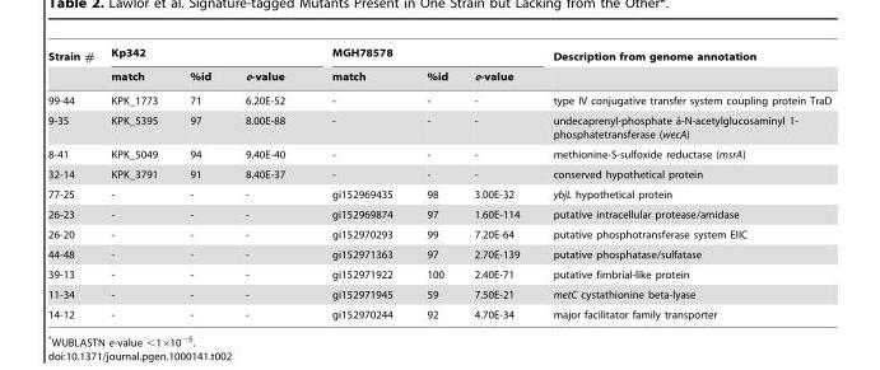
<table><thead><tr><td rowspan="2">Strain #</td><td colspan="3">Kp342</td><td colspan="3">MGH78578</td><td rowspan="2">Description from genome annotation</td></tr><tr><td>match</td><td>%id</td><td>e-value</td><td>match</td><td>%id</td><td>e-value</td></tr></thead><tbody><tr><td>99-44</td><td>KPK_1773</td><td>71</td><td>6.20E-52</td><td>-</td><td>-</td><td>-</td><td>type IV conjugative transfer system coupling protein TraD</td></tr><tr><td>9-35</td><td>KPK_5395</td><td>97</td><td>8.00E-88</td><td>-</td><td>-</td><td>-</td><td>undecaprenyl-phosphate a´-N-acetylglucosaminyl 1- phosphatetransferase (wecA)</td></tr><tr><td>8-41</td><td>KPK_5049</td><td>94</td><td>9.40E-40</td><td>-</td><td>-</td><td>-</td><td>methionine-S-sulfoxide reductase (msrA)</td></tr><tr><td>32-14</td><td>KPK_3791</td><td>91</td><td>8.40E-37</td><td>-</td><td>-</td><td>-</td><td>conserved hypothetical protein</td></tr><tr><td>77-25</td><td>-</td><td>-</td><td>-</td><td>gi152969435</td><td>98</td><td>3.00E-32</td><td>ybjL hypothetical protein</td></tr><tr><td>26-23</td><td>-</td><td>-</td><td>-</td><td>gi152969874</td><td>97</td><td>1.60E-114</td><td>putative intracellular protease/amidase</td></tr><tr><td>26-20</td><td>-</td><td>-</td><td>-</td><td>gi152970293</td><td>99</td><td>7.20E-64</td><td>putative phosphotransferase system EIIC</td></tr><tr><td>44-48</td><td>-</td><td>-</td><td>-</td><td>gi152971363</td><td>97</td><td>2.70E-139</td><td>putative phosphatase/sulfatase</td></tr><tr><td>39-13</td><td>-</td><td>-</td><td>-</td><td>gi152971922</td><td>100</td><td>2.40E-71</td><td>putative fimbrial-like protein</td></tr><tr><td>11-34</td><td>-</td><td>-</td><td>-</td><td>gi152971945</td><td>59</td><td>7.50E-21</td><td>metC cystathionine beta-lyase</td></tr><tr><td>14-12</td><td>-</td><td>-</td><td>-</td><td>gi152970244</td><td>92</td><td>4.70E-34</td><td>major facilitator family transporter</td></tr></tbody></table>